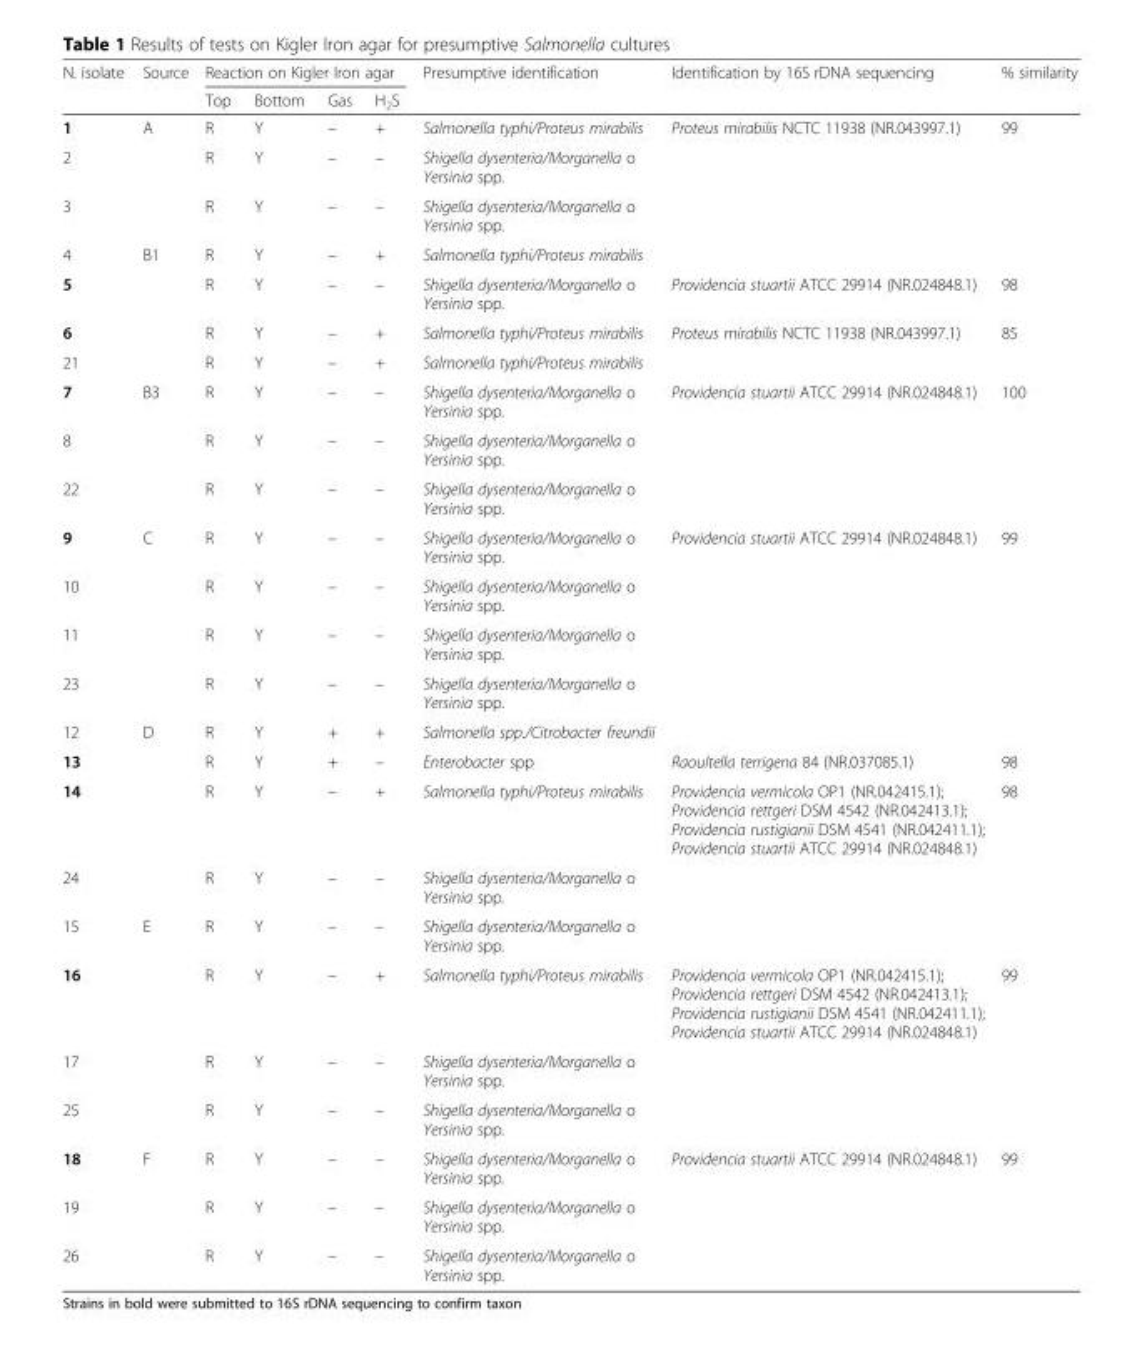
<table><thead><tr><td rowspan="2">N. isolate</td><td rowspan="2">Source</td><td colspan="4">Reaction on Kigler Iron agar</td><td rowspan="2">Presumptive identification</td><td rowspan="2">Identification by 16S rDNA sequencing</td><td rowspan="2">% similarity</td></tr><tr><td>Top</td><td>Bottom</td><td>Gas</td><td>H<sub>2</sub>S</td></tr></thead><tbody><tr><td>1</td><td rowspan="3">A</td><td>R</td><td>Y</td><td>–</td><td>+</td><td>Salmonella typhi/Proteus mirabilis</td><td>Proteus mirabilis NCTC 11938 (NR.043997.1)</td><td>99</td></tr><tr><td>2</td><td>R</td><td>Y</td><td>–</td><td>–</td><td>Shigella dysenteria/Morganella o Yersinia spp.</td><td></td><td></td></tr><tr><td>3</td><td>R</td><td>Y</td><td>–</td><td>–</td><td>Shigella dysenteria/Morganella o Yersinia spp.</td><td></td><td></td></tr><tr><td>4</td><td rowspan="4">B1</td><td>R</td><td>Y</td><td>–</td><td>+</td><td>Salmonella typhi/Proteus mirabilis</td><td></td><td></td></tr><tr><td>5</td><td>R</td><td>Y</td><td>–</td><td>–</td><td>Shigella dysenteria/Morganella o Yersinia spp.</td><td>Providencia stuartii ATCC 29914 (NR.024848.1)</td><td>98</td></tr><tr><td>6</td><td>R</td><td>Y</td><td>–</td><td>+</td><td>Salmonella typhi/Proteus mirabilis</td><td>Proteus mirabilis NCTC 11938 (NR.043997.1)</td><td>85</td></tr><tr><td>21</td><td>R</td><td>Y</td><td>–</td><td>+</td><td>Salmonella typhi/Proteus mirabilis</td><td></td><td></td></tr><tr><td>7</td><td rowspan="3">B3</td><td>R</td><td>Y</td><td>–</td><td>–</td><td>Shigella dysenteria/Morganella o Yersinia spp.</td><td>Providencia stuartii ATCC 29914 (NR.024848.1)</td><td>100</td></tr><tr><td>8</td><td>R</td><td>Y</td><td>–</td><td>–</td><td>Shigella dysenteria/Morganella o Yersinia spp.</td><td></td><td></td></tr><tr><td>22</td><td>R</td><td>Y</td><td>–</td><td>–</td><td>Shigella dysenteria/Morganella o Yersinia spp.</td><td></td><td></td></tr><tr><td>9</td><td rowspan="4">C</td><td>R</td><td>Y</td><td>–</td><td>–</td><td>Shigella dysenteria/Morganella o Yersinia spp.</td><td>Providencia stuartii ATCC 29914 (NR.024848.1)</td><td>99</td></tr><tr><td>10</td><td>R</td><td>Y</td><td>–</td><td>–</td><td>Shigella dysenteria/Morganella o Yersinia spp.</td><td></td><td></td></tr><tr><td>11</td><td>R</td><td>Y</td><td>–</td><td>–</td><td>Shigella dysenteria/Morganella o Yersinia spp.</td><td></td><td></td></tr><tr><td>23</td><td>R</td><td>Y</td><td>–</td><td>–</td><td>Shigella dysenteria/Morganella o Yersinia spp.</td><td></td><td></td></tr><tr><td>12</td><td rowspan="4">D</td><td>R</td><td>Y</td><td>+</td><td>+</td><td>Salmonella spp./Citrobacter freundii</td><td></td><td></td></tr><tr><td>13</td><td>R</td><td>Y</td><td>+</td><td>–</td><td>Enterobacter spp</td><td>Raoultella terrigena 84 (NR.037085.1)</td><td>98</td></tr><tr><td>14</td><td>R</td><td>Y</td><td>–</td><td>+</td><td>Salmonella typhi/Proteus mirabilis</td><td>Providencia vermicola OP1 (NR.042415.1); Providencia rettgeri DSM 4542 (NR.042413.1); Providencia rustigianii DSM 4541 (NR.042411.1); Providencia stuartii ATCC 29914 (NR.024848.1)</td><td>98</td></tr><tr><td>24</td><td>R</td><td>Y</td><td>–</td><td>–</td><td>Shigella dysenteria/Morganella o Yersinia spp.</td><td></td><td></td></tr><tr><td>15</td><td rowspan="4">E</td><td>R</td><td>Y</td><td>–</td><td>–</td><td>Shigella dysenteria/Morganella o Yersinia spp.</td><td></td><td></td></tr><tr><td>16</td><td>R</td><td>Y</td><td>–</td><td>+</td><td>Salmonella typhi/Proteus mirabilis</td><td>Providencia vermicola OP1 (NR.042415.1); Providencia rettgeri DSM 4542 (NR.042413.1); Providencia rustigianii DSM 4541 (NR.042411.1); Providencia stuartii ATCC 29914 (NR.024848.1)</td><td>99</td></tr><tr><td>17</td><td>R</td><td>Y</td><td>–</td><td>–</td><td>Shigella dysenteria/Morganella o Yersinia spp.</td><td></td><td></td></tr><tr><td>25</td><td>R</td><td>Y</td><td>–</td><td>–</td><td>Shigella dysenteria/Morganella o Yersinia spp.</td><td></td><td></td></tr><tr><td>18</td><td rowspan="3">F</td><td>R</td><td>Y</td><td>–</td><td>–</td><td>Shigella dysenteria/Morganella o Yersinia spp.</td><td>Providencia stuartii ATCC 29914 (NR.024848.1)</td><td>99</td></tr><tr><td>19</td><td>R</td><td>Y</td><td>–</td><td>–</td><td>Shigella dysenteria/Morganella o Yersinia spp.</td><td></td><td></td></tr><tr><td>26</td><td>R</td><td>Y</td><td>–</td><td>–</td><td>Shigella dysenteria/Morganella o Yersinia spp.</td><td></td><td></td></tr></tbody></table>